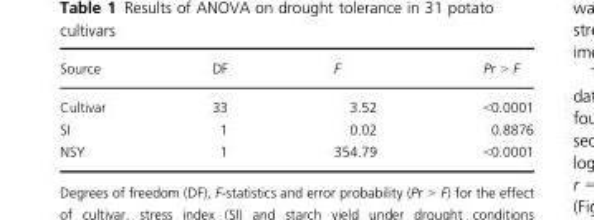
<table><thead><tr><td>Source</td><td>DF</td><td>F</td><td>Pr &gt; F</td></tr></thead><tbody><tr><td>Cultivar</td><td>33</td><td>3.52</td><td>&lt;0.0001</td></tr><tr><td>SI</td><td>1</td><td>0.02</td><td>0.8876</td></tr><tr><td>NSY</td><td>1</td><td>354.79</td><td>&lt;0.0001</td></tr></tbody></table>